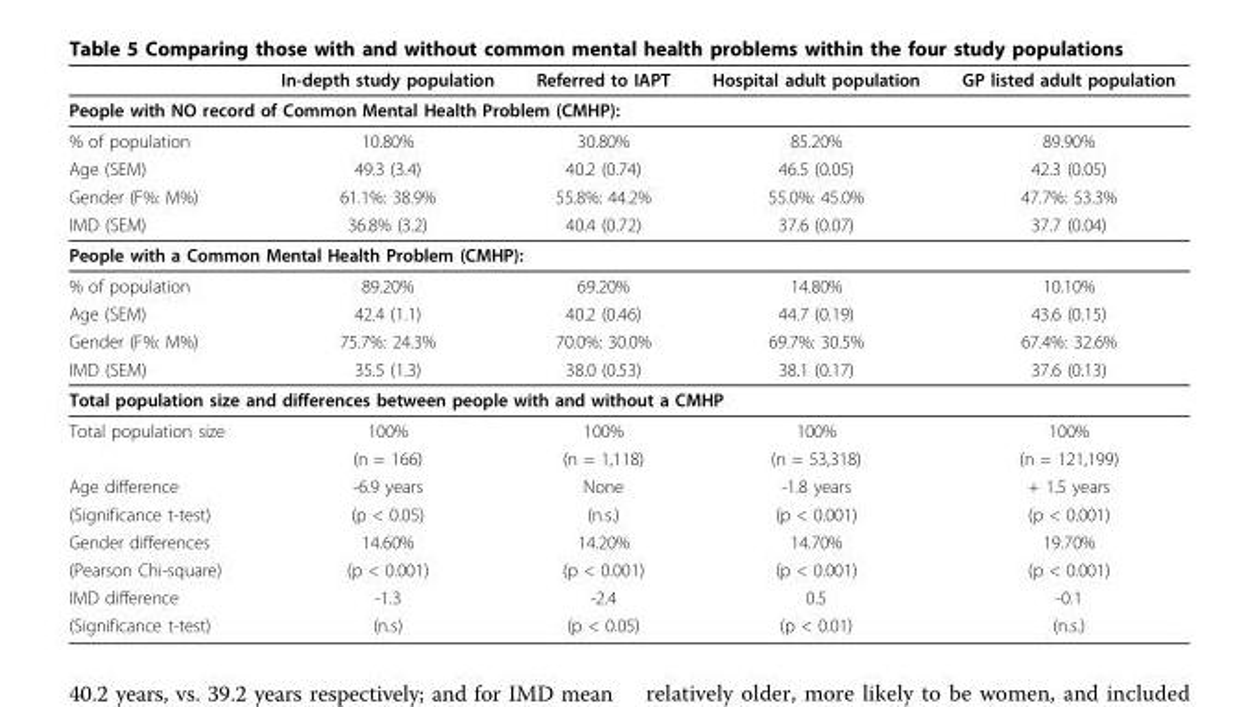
<table><thead><tr><td></td><td>In-depth study population</td><td>Referred to IAPT</td><td>Hospital adult population</td><td>GP listed adult population</td></tr></thead><tbody><tr><td colspan="5">People with NO record of Common Mental Health Problem (CMHP):</td></tr><tr><td>% of population</td><td>10.80%</td><td>30.80%</td><td>85.20%</td><td>89.90%</td></tr><tr><td>Age (SEM)</td><td>49.3 (3.4)</td><td>40.2 (0.74)</td><td>46.5 (0.05)</td><td>42.3 (0.05)</td></tr><tr><td>Gender (F%: M%)</td><td>61.1%: 38.9%</td><td>55.8%: 44.2%</td><td>55.0%: 45.0%</td><td>47.7%: 53.3%</td></tr><tr><td>IMD (SEM)</td><td>36.8% (3.2)</td><td>40.4 (0.72)</td><td>37.6 (0.07)</td><td>37.7 (0.04)</td></tr><tr><td colspan="5">People with a Common Mental Health Problem (CMHP):</td></tr><tr><td>% of population</td><td>89.20%</td><td>69.20%</td><td>14.80%</td><td>10.10%</td></tr><tr><td>Age (SEM)</td><td>42.4 (1.1)</td><td>40.2 (0.46)</td><td>44.7 (0.19)</td><td>43.6 (0.15)</td></tr><tr><td>Gender (F%: M%)</td><td>75.7%: 24.3%</td><td>70.0%: 30.0%</td><td>69.7%: 30.5%</td><td>67.4%: 32.6%</td></tr><tr><td>IMD (SEM)</td><td>35.5 (1.3)</td><td>38.0 (0.53)</td><td>38.1 (0.17)</td><td>37.6 (0.13)</td></tr><tr><td colspan="5">Total population size and differences between people with and without a CMHP</td></tr><tr><td rowspan="2">Total population size</td><td>100%</td><td>100%</td><td>100%</td><td>100%</td></tr><tr><td>(n = 166)</td><td>(n = 1,118)</td><td>(n = 53,318)</td><td>(n = 121,199)</td></tr><tr><td>Age difference</td><td>-6.9 years</td><td>None</td><td>-1.8 years</td><td>+ 1.5 years</td></tr><tr><td>(Significance t-test)</td><td>(p &lt; 0.05)</td><td>(n.s.)</td><td>(p &lt; 0.001)</td><td>(p &lt; 0.001)</td></tr><tr><td>Gender differences</td><td>14.60%</td><td>14.20%</td><td>14.70%</td><td>19.70%</td></tr><tr><td>(Pearson Chi-square)</td><td>(p &lt; 0.001)</td><td>(p &lt; 0.001)</td><td>(p &lt; 0.001)</td><td>(p &lt; 0.001)</td></tr><tr><td>IMD difference</td><td>-1.3</td><td>-2.4</td><td>0.5</td><td>-0.1</td></tr><tr><td>(Significance t-test)</td><td>(n.s)</td><td>(p &lt; 0.05)</td><td>(p &lt; 0.01)</td><td>(n.s.)</td></tr></tbody></table>